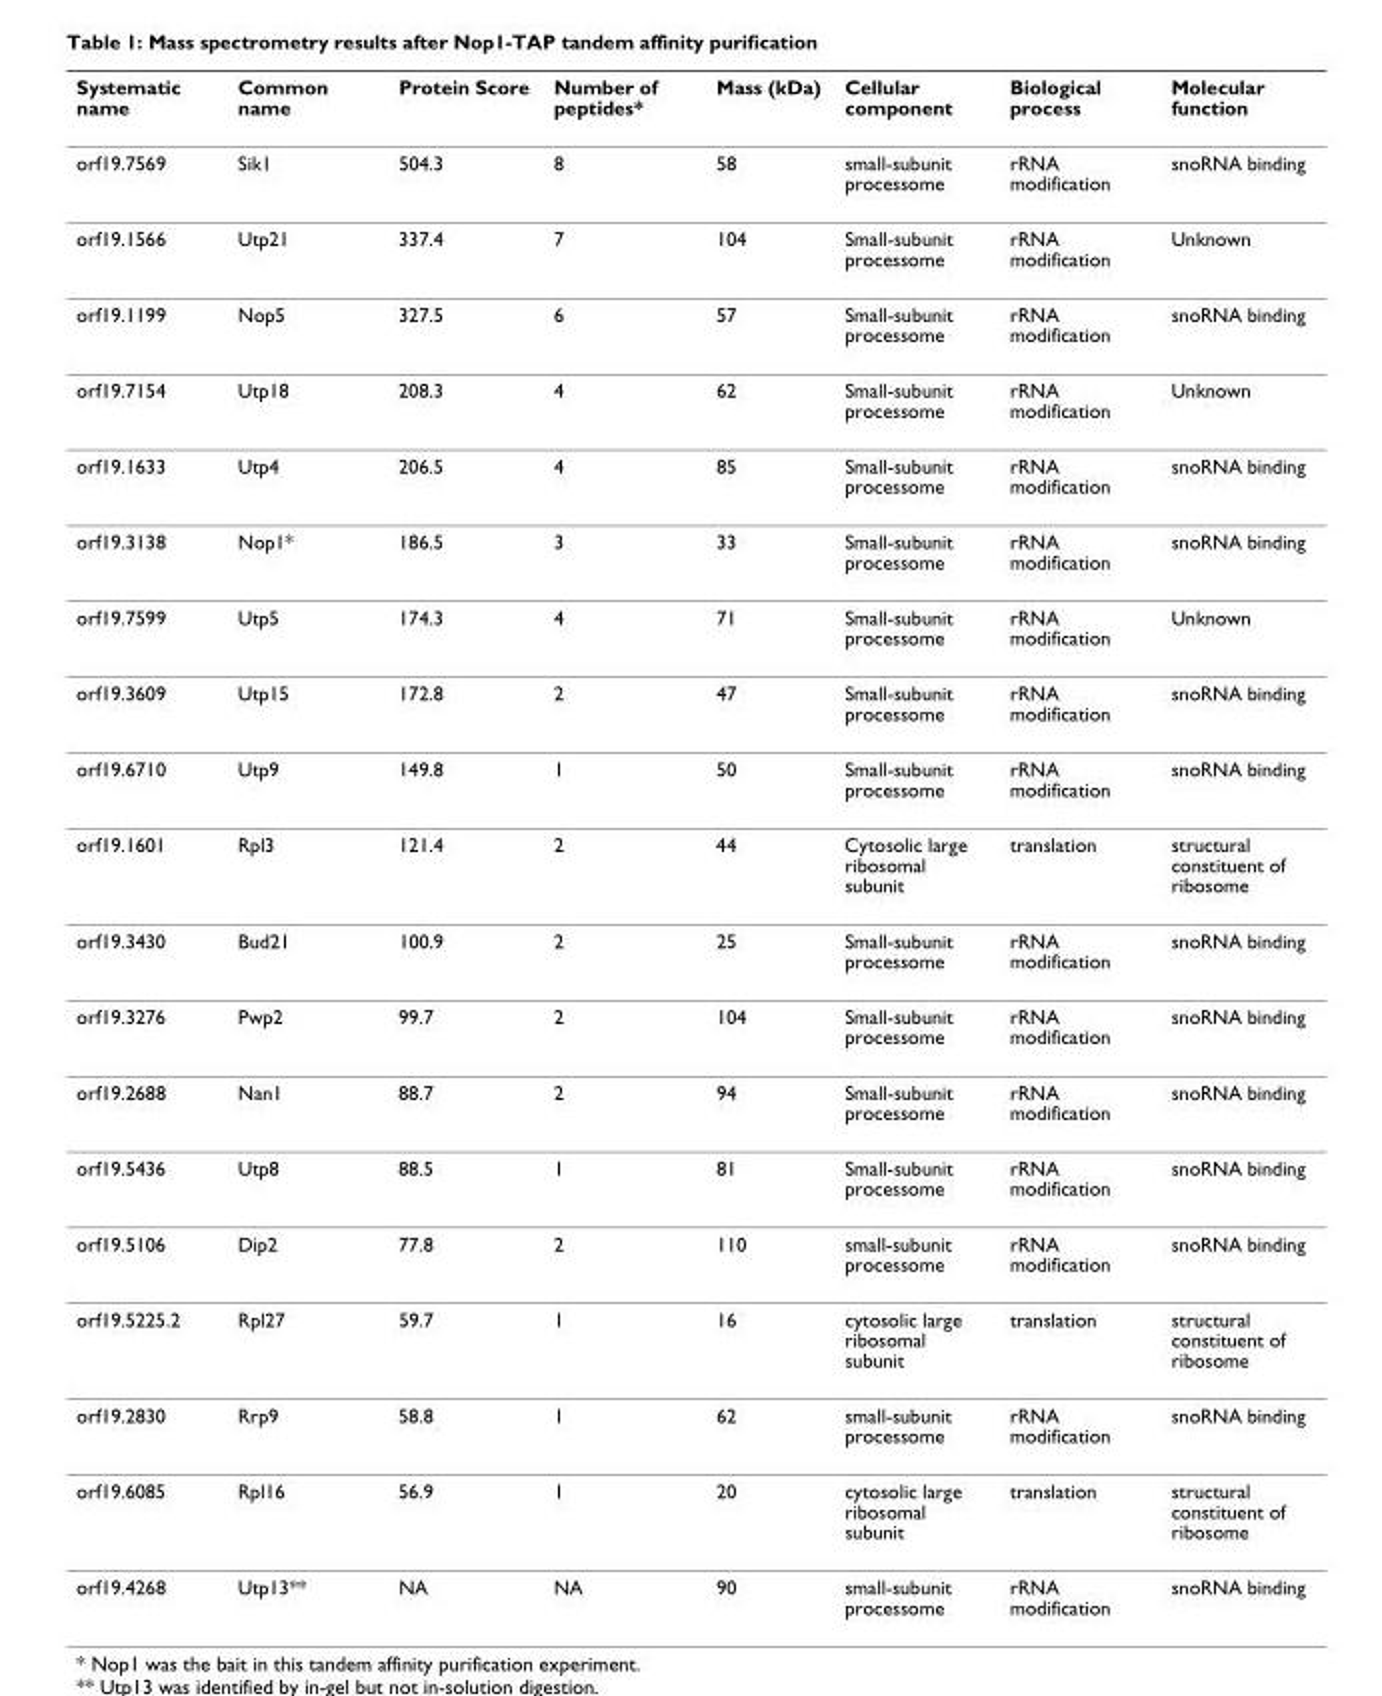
<table><thead><tr><td>Systematic name</td><td>Common name</td><td>Protein Score</td><td>Number of peptides*</td><td>Mass (kDa)</td><td>Cellular component</td><td>Biological process</td><td>Molecular function</td></tr></thead><tbody><tr><td>orf19.7569</td><td>Sik1</td><td>504.3</td><td>8</td><td>58</td><td>small-subunit processome</td><td>rRNA modification</td><td>snoRNA binding</td></tr><tr><td>orf19.1566</td><td>Utp21</td><td>337.4</td><td>7</td><td>104</td><td>Small-subunit processome</td><td>rRNA modification</td><td>Unknown</td></tr><tr><td>orf19.1199</td><td>Nop5</td><td>327.5</td><td>6</td><td>57</td><td>Small-subunit processome</td><td>rRNA modification</td><td>snoRNA binding</td></tr><tr><td>orf19.7154</td><td>Utp18</td><td>208.3</td><td>4</td><td>62</td><td>Small-subunit processome</td><td>rRNA modification</td><td>Unknown</td></tr><tr><td>orf19.1633</td><td>Utp4</td><td>206.5</td><td>4</td><td>85</td><td>Small-subunit processome</td><td>rRNA modification</td><td>snoRNA binding</td></tr><tr><td>orf19.3138</td><td>Nop1*</td><td>186.5</td><td>3</td><td>33</td><td>Small-subunit processome</td><td>rRNA modification</td><td>snoRNA binding</td></tr><tr><td>orf19.7599</td><td>Utp5</td><td>174.3</td><td>4</td><td>71</td><td>Small-subunit processome</td><td>rRNA modification</td><td>Unknown</td></tr><tr><td>orf19.3609</td><td>Utp15</td><td>172.8</td><td>2</td><td>47</td><td>Small-subunit processome</td><td>rRNA modification</td><td>snoRNA binding</td></tr><tr><td>orf19.6710</td><td>Utp9</td><td>149.8</td><td>1</td><td>50</td><td>Small-subunit processome</td><td>rRNA modification</td><td>snoRNA binding</td></tr><tr><td>orf19.1601</td><td>Rpl3</td><td>121.4</td><td>2</td><td>44</td><td>Cytosolic large ribosomal subunit</td><td>translation</td><td>structural constituent of ribosome</td></tr><tr><td>orf19.3430</td><td>Bud21</td><td>100.9</td><td>2</td><td>25</td><td>Small-subunit processome</td><td>rRNA modification</td><td>snoRNA binding</td></tr><tr><td>orf19.3276</td><td>Pwp2</td><td>99.7</td><td>2</td><td>104</td><td>Small-subunit processome</td><td>rRNA modification</td><td>snoRNA binding</td></tr><tr><td>orf19.2688</td><td>Nan1</td><td>88.7</td><td>2</td><td>94</td><td>Small-subunit processome</td><td>rRNA modification</td><td>snoRNA binding</td></tr><tr><td>orf19.5436</td><td>Utp8</td><td>88.5</td><td>1</td><td>81</td><td>Small-subunit processome</td><td>rRNA modification</td><td>snoRNA binding</td></tr><tr><td>orf19.5106</td><td>Dip2</td><td>77.8</td><td>2</td><td>110</td><td>small-subunit processome</td><td>rRNA modification</td><td>snoRNA binding</td></tr><tr><td>orf19.5225.2</td><td>Rpl27</td><td>59.7</td><td>1</td><td>16</td><td>cytosolic large ribosomal subunit</td><td>translation</td><td>structural constituent of ribosome</td></tr><tr><td>orf19.2830</td><td>Rrp9</td><td>58.8</td><td>1</td><td>62</td><td>small-subunit processome</td><td>rRNA modification</td><td>snoRNA binding</td></tr><tr><td>orf19.6085</td><td>Rpl16</td><td>56.9</td><td>1</td><td>20</td><td>cytosolic large ribosomal subunit</td><td>translation</td><td>structural constituent of ribosome</td></tr><tr><td>orf19.4268</td><td>Utp13**</td><td>NA</td><td>NA</td><td>90</td><td>small-subunit processome</td><td>rRNA modification</td><td>snoRNA binding</td></tr></tbody></table>